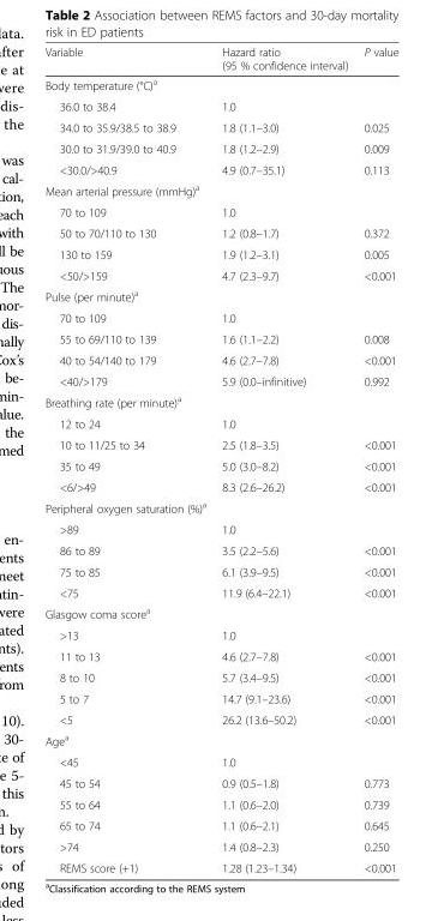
<table><thead><tr><td>Variable</td><td>Hazard ratio (95 % confidence interval)</td><td>P value</td></tr></thead><tbody><tr><td colspan="3">Body temperature (°C)<sup>a</sup></td></tr><tr><td>36.0 to 38.4</td><td>1.0</td><td></td></tr><tr><td>34.0 to 35.9/38.5 to 38.9</td><td>1.8 (1.1–3.0)</td><td>0.025</td></tr><tr><td>30.0 to 31.9/39.0 to 40.9</td><td>1.8 (1.2–2.9)</td><td>0.009</td></tr><tr><td>&lt;30.0/&gt;40.9</td><td>4.9 (0.7–35.1)</td><td>0.113</td></tr><tr><td colspan="3">Mean arterial pressure (mmHg)<sup>a</sup></td></tr><tr><td>70 to 109</td><td>1.0</td><td></td></tr><tr><td>50 to 70/110 to 130</td><td>1.2 (0.8–1.7)</td><td>0.372</td></tr><tr><td>130 to 159</td><td>1.9 (1.2–3.1)</td><td>0.005</td></tr><tr><td>&lt;50/&gt;159</td><td>4.7 (2.3–9.7)</td><td>&lt;0.001</td></tr><tr><td colspan="3">Pulse (per minute)<sup>a</sup></td></tr><tr><td>70 to 109</td><td>1.0</td><td></td></tr><tr><td>55 to 69/110 to 139</td><td>1.6 (1.1–2.2)</td><td>0.008</td></tr><tr><td>40 to 54/140 to 179</td><td>4.6 (2.7–7.8)</td><td>&lt;0.001</td></tr><tr><td>&lt;40/&gt;179</td><td>5.9 (0.0–infinitive)</td><td>0.992</td></tr><tr><td colspan="3">Breathing rate (per minute)<sup>a</sup></td></tr><tr><td>12 to 24</td><td>1.0</td><td></td></tr><tr><td>10 to 11/25 to 34</td><td>2.5 (1.8–3.5)</td><td>&lt;0.001</td></tr><tr><td>35 to 49</td><td>5.0 (3.0–8.2)</td><td>&lt;0.001</td></tr><tr><td>&lt;6/&gt;49</td><td>8.3 (2.6–26.2)</td><td>&lt;0.001</td></tr><tr><td colspan="3">Peripheral oxygen saturation (%)<sup>a</sup></td></tr><tr><td>&gt;89</td><td>1.0</td><td></td></tr><tr><td>86 to 89</td><td>3.5 (2.2–5.6)</td><td>&lt;0.001</td></tr><tr><td>75 to 85</td><td>6.1 (3.9–9.5)</td><td>&lt;0.001</td></tr><tr><td>&lt;75</td><td>11.9 (6.4–22.1)</td><td>&lt;0.001</td></tr><tr><td colspan="3">Glasgow coma score<sup>a</sup></td></tr><tr><td>&gt;13</td><td>1.0</td><td></td></tr><tr><td>11 to 13</td><td>4.6 (2.7–7.8)</td><td>&lt;0.001</td></tr><tr><td>8 to 10</td><td>5.7 (3.4–9.5)</td><td>&lt;0.001</td></tr><tr><td>5 to 7</td><td>14.7 (9.1–23.6)</td><td>&lt;0.001</td></tr><tr><td>&lt;5</td><td>26.2 (13.6–50.2)</td><td>&lt;0.001</td></tr><tr><td colspan="3">Age<sup>a</sup></td></tr><tr><td>&lt;45</td><td>1.0</td><td></td></tr><tr><td>45 to 54</td><td>0.9 (0.5–1.8)</td><td>0.773</td></tr><tr><td>55 to 64</td><td>1.1 (0.6–2.0)</td><td>0.739</td></tr><tr><td>65 to 74</td><td>1.1 (0.6–2.1)</td><td>0.645</td></tr><tr><td>&gt;74</td><td>1.4 (0.8–2.3)</td><td>0.250</td></tr><tr><td>REMS score (+1)</td><td>1.28 (1.23–1.34)</td><td>&lt;0.001</td></tr></tbody></table>